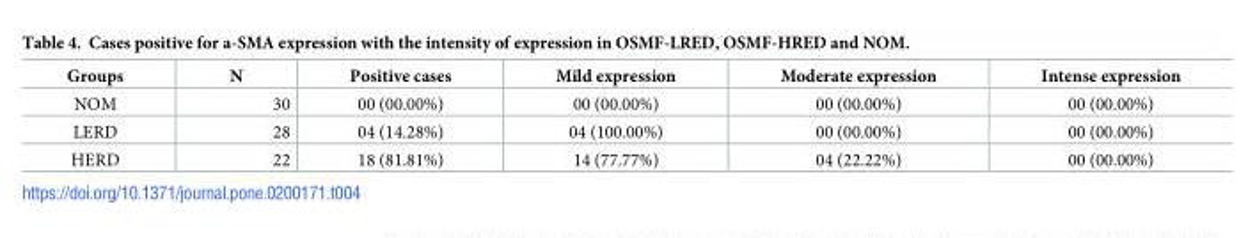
<table><thead><tr><td>Groups</td><td>N</td><td>Positive cases</td><td>Mild expression</td><td>Moderate expression</td><td>Intense expression</td></tr></thead><tbody><tr><td>NOM</td><td>30</td><td>00 (00.00%)</td><td>00 (00.00%)</td><td>00 (00.00%)</td><td>00 (00.00%)</td></tr><tr><td>LERD</td><td>28</td><td>04 (14.28%)</td><td>04 (100.00%)</td><td>00 (00.00%)</td><td>00 (00.00%)</td></tr><tr><td>HERD</td><td>22</td><td>18 (81.81%)</td><td>14 (77.77%)</td><td>04 (22.22%)</td><td>00 (00.00%)</td></tr></tbody></table>